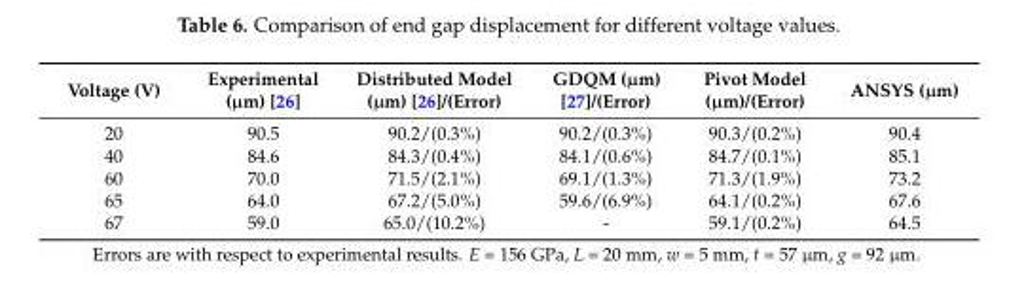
<table><thead><tr><td>Voltage (V)</td><td>Experimental (µm) [26]</td><td>Distributed Model (µm) [26]/(Error)</td><td>GDQM (µm) [27]/(Error)</td><td>Pivot Model (µm)/(Error)</td><td>ANSYS (µm)</td></tr></thead><tbody><tr><td>20</td><td>90.5</td><td>90.2/(0.3%)</td><td>90.2/(0.3%)</td><td>90.3/(0.2%)</td><td>90.4</td></tr><tr><td>40</td><td>84.6</td><td>84.3/(0.4%)</td><td>84.1/(0.6%)</td><td>84.7/(0.1%)</td><td>85.1</td></tr><tr><td>60</td><td>70.0</td><td>71.5/(2.1%)</td><td>69.1/(1.3%)</td><td>71.3/(1.9%)</td><td>73.2</td></tr><tr><td>65</td><td>64.0</td><td>67.2/(5.0%)</td><td>59.6/(6.9%)</td><td>64.1/(0.2%)</td><td>67.6</td></tr><tr><td>67</td><td>59.0</td><td>65.0/(10.2%)</td><td>-</td><td>59.1/(0.2%)</td><td>64.5</td></tr></tbody></table>